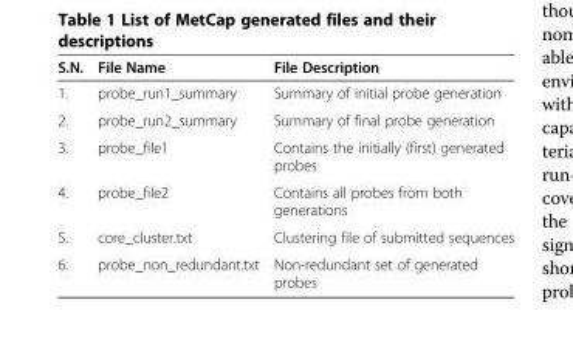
<table><thead><tr><td>S.N.</td><td>File Name</td><td>File Description</td></tr></thead><tbody><tr><td>1.</td><td>probe_run1_summary</td><td>Summary of initial probe generation</td></tr><tr><td>2.</td><td>probe_run2_summary</td><td>Summary of final probe generation</td></tr><tr><td>3.</td><td>probe_file1</td><td>Contains the initially (first) generated probes</td></tr><tr><td>4.</td><td>probe_file2</td><td>Contains all probes from both generations</td></tr><tr><td>5.</td><td>core_cluster.txt</td><td>Clustering file of submitted sequences</td></tr><tr><td>6.</td><td>probe_non_redundant.txt</td><td>Non-redundant set of generated probes</td></tr></tbody></table>